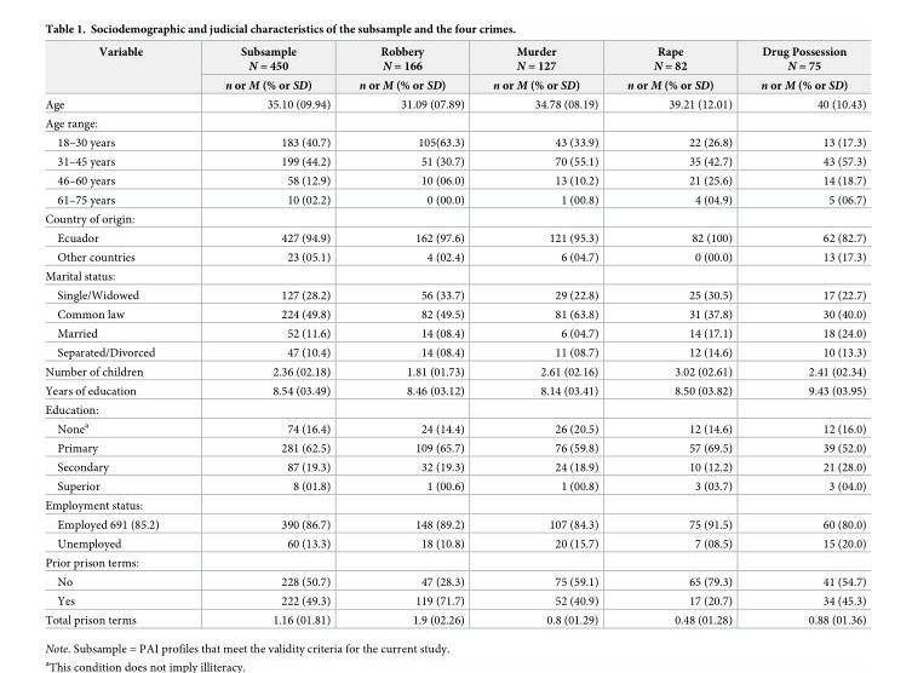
<table><thead><tr><td rowspan="2">Variable</td><td rowspan="2">Subsample N = 450 n or M (% or SD)</td><td rowspan="2">Robbery N = 166 n or M (% or SD)</td><td rowspan="2">Murder N = 127 n or M (% or SD)</td><td rowspan="2">Rape N = 82 n or M (% or SD)</td><td rowspan="2">Drug Possession N = 75 n or M (% or SD)</td></tr><tr></tr></thead><tbody><tr><td>Age</td><td>35.10 (09.94)</td><td>31.09 (07.89)</td><td>34.78 (08.19)</td><td>39.21 (12.01)</td><td>40 (10.43)</td></tr><tr><td colspan="6">Age range:</td></tr><tr><td>18–30 years</td><td>183 (40.7)</td><td>105(63.3)</td><td>43 (33.9)</td><td>22 (26.8)</td><td>13 (17.3)</td></tr><tr><td>31–45 years</td><td>199 (44.2)</td><td>51 (30.7)</td><td>70 (55.1)</td><td>35 (42.7)</td><td>43 (57.3)</td></tr><tr><td>46–60 years</td><td>58 (12.9)</td><td>10 (06.0)</td><td>13 (10.2)</td><td>21 (25.6)</td><td>14 (18.7)</td></tr><tr><td>61–75 years</td><td>10 (02.2)</td><td>0 (00.0)</td><td>1 (00.8)</td><td>4 (04.9)</td><td>5 (06.7)</td></tr><tr><td colspan="6">Country of origin:</td></tr><tr><td>Ecuador</td><td>427 (94.9)</td><td>162 (97.6)</td><td>121 (95.3)</td><td>82 (100)</td><td>62 (82.7)</td></tr><tr><td>Other countries</td><td>23 (05.1)</td><td>4 (02.4)</td><td>6 (04.7)</td><td>0 (00.0)</td><td>13 (17.3)</td></tr><tr><td colspan="6">Marital status:</td></tr><tr><td>Single/Widowed</td><td>127 (28.2)</td><td>56 (33.7)</td><td>29 (22.8)</td><td>25 (30.5)</td><td>17 (22.7)</td></tr><tr><td>Common law</td><td>224 (49.8)</td><td>82 (49.5)</td><td>81 (63.8)</td><td>31 (37.8)</td><td>30 (40.0)</td></tr><tr><td>Married</td><td>52 (11.6)</td><td>14 (08.4)</td><td>6 (04.7)</td><td>14 (17.1)</td><td>18 (24.0)</td></tr><tr><td>Separated/Divorced</td><td>47 (10.4)</td><td>14 (08.4)</td><td>11 (08.7)</td><td>12 (14.6)</td><td>10 (13.3)</td></tr><tr><td>Number of children</td><td>2.36 (02.18)</td><td>1.81 (01.73)</td><td>2.61 (02.16)</td><td>3.02 (02.61)</td><td>2.41 (02.34)</td></tr><tr><td>Years of education</td><td>8.54 (03.49)</td><td>8.46 (03.12)</td><td>8.14 (03.41)</td><td>8.50 (03.82)</td><td>9.43 (03.95)</td></tr><tr><td colspan="6">Education:</td></tr><tr><td>None<sup>a</sup></td><td>74 (16.4)</td><td>24 (14.4)</td><td>26 (20.5)</td><td>12 (14.6)</td><td>12 (16.0)</td></tr><tr><td>Primary</td><td>281 (62.5)</td><td>109 (65.7)</td><td>76 (59.8)</td><td>57 (69.5)</td><td>39 (52.0)</td></tr><tr><td>Secondary</td><td>87 (19.3)</td><td>32 (19.3)</td><td>24 (18.9)</td><td>10 (12.2)</td><td>21 (28.0)</td></tr><tr><td>Superior</td><td>8 (01.8)</td><td>1 (00.6)</td><td>1 (00.8)</td><td>3 (03.7)</td><td>3 (04.0)</td></tr><tr><td colspan="6">Employment status:</td></tr><tr><td>Employed 691 (85.2)</td><td>390 (86.7)</td><td>148 (89.2)</td><td>107 (84.3)</td><td>75 (91.5)</td><td>60 (80.0)</td></tr><tr><td>Unemployed</td><td>60 (13.3)</td><td>18 (10.8)</td><td>20 (15.7)</td><td>7 (08.5)</td><td>15 (20.0)</td></tr><tr><td colspan="6">Prior prison terms:</td></tr><tr><td>No</td><td>228 (50.7)</td><td>47 (28.3)</td><td>75 (59.1)</td><td>65 (79.3)</td><td>41 (54.7)</td></tr><tr><td>Yes</td><td>222 (49.3)</td><td>119 (71.7)</td><td>52 (40.9)</td><td>17 (20.7)</td><td>34 (45.3)</td></tr><tr><td>Total prison terms</td><td>1.16 (01.81)</td><td>1.9 (02.26)</td><td>0.8 (01.29)</td><td>0.48 (01.28)</td><td>0.88 (01.36)</td></tr></tbody></table>